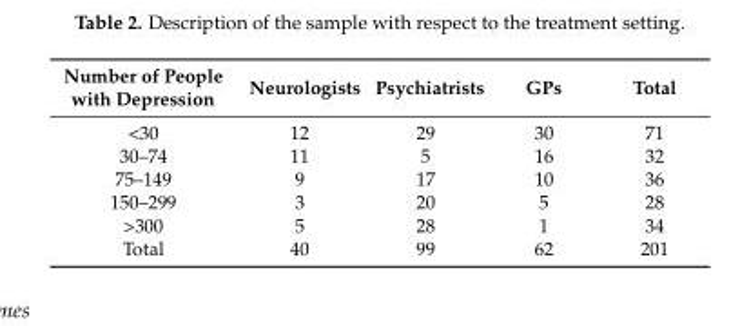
<table><thead><tr><td>Number of People with Depression</td><td>Neurologists</td><td>Psychiatrists</td><td>GPs</td><td>Total</td></tr></thead><tbody><tr><td>&lt;30</td><td>12</td><td>29</td><td>30</td><td>71</td></tr><tr><td>30–74</td><td>11</td><td>5</td><td>16</td><td>32</td></tr><tr><td>75–149</td><td>9</td><td>17</td><td>10</td><td>36</td></tr><tr><td>150–299</td><td>3</td><td>20</td><td>5</td><td>28</td></tr><tr><td>&gt;300</td><td>5</td><td>28</td><td>1</td><td>34</td></tr><tr><td>Total</td><td>40</td><td>99</td><td>62</td><td>201</td></tr></tbody></table>